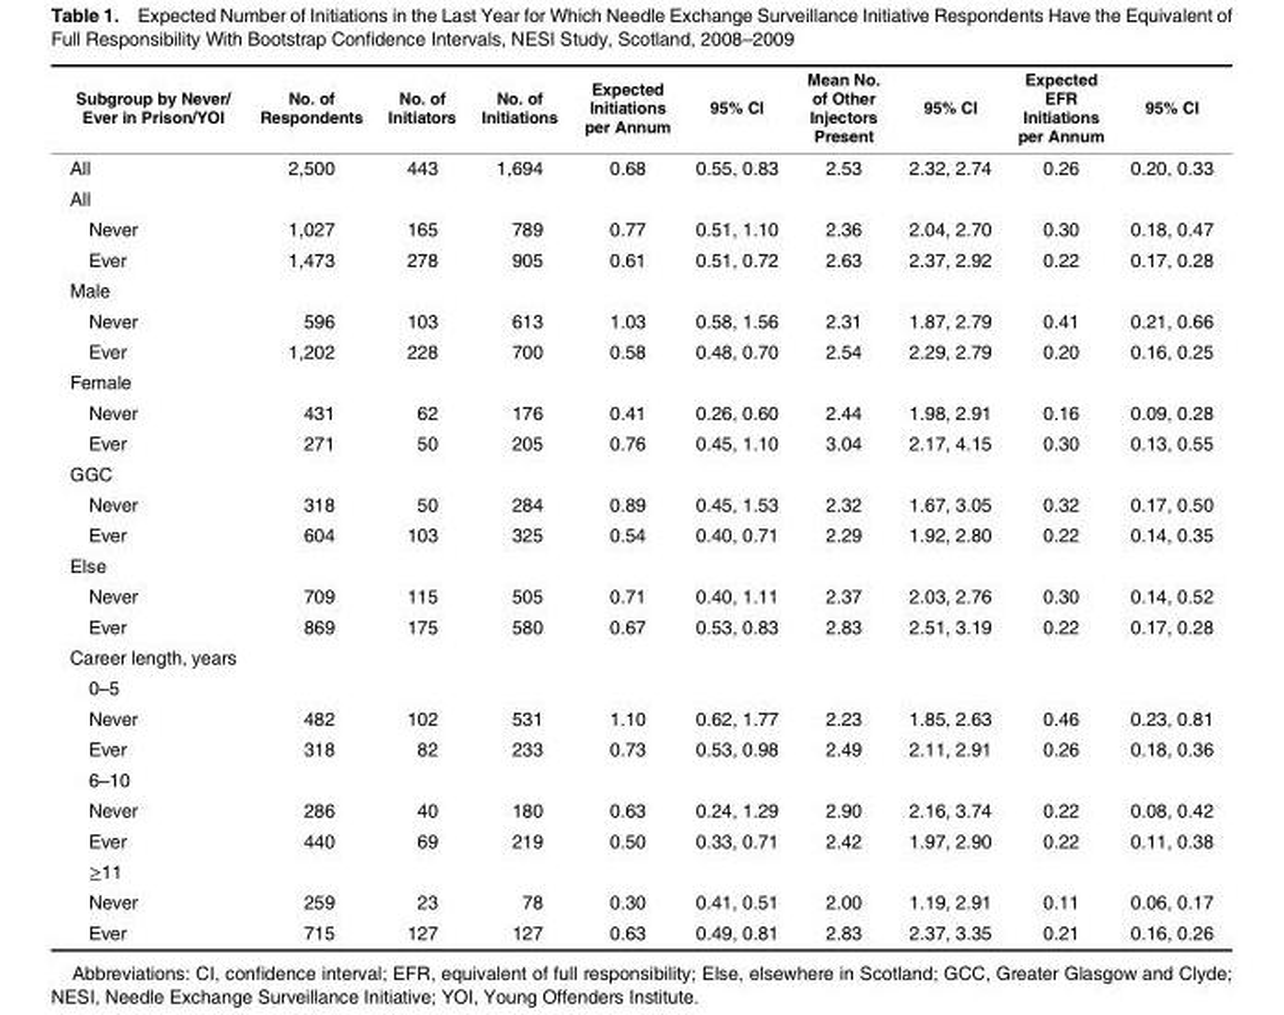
<table><thead><tr><td>Subgroup by Never/ Ever in Prison/YOI</td><td>No. of Respondents</td><td>No. of Initiators</td><td>No. of Initiations</td><td>Expected Initiations per Annum</td><td>95% CI</td><td>Mean No. of Other Injectors Present</td><td>95% CI</td><td>Expected EFR Initiations per Annum</td><td>95% CI</td></tr></thead><tbody><tr><td>All</td><td>2,500</td><td>443</td><td>1,694</td><td>0.68</td><td>0.55, 0.83</td><td>2.53</td><td>2.32, 2.74</td><td>0.26</td><td>0.20, 0.33</td></tr><tr><td colspan="10">All</td></tr><tr><td>Never</td><td>1,027</td><td>165</td><td>789</td><td>0.77</td><td>0.51, 1.10</td><td>2.36</td><td>2.04, 2.70</td><td>0.30</td><td>0.18, 0.47</td></tr><tr><td>Ever</td><td>1,473</td><td>278</td><td>905</td><td>0.61</td><td>0.51, 0.72</td><td>2.63</td><td>2.37, 2.92</td><td>0.22</td><td>0.17, 0.28</td></tr><tr><td colspan="10">Male</td></tr><tr><td>Never</td><td>596</td><td>103</td><td>613</td><td>1.03</td><td>0.58, 1.56</td><td>2.31</td><td>1.87, 2.79</td><td>0.41</td><td>0.21, 0.66</td></tr><tr><td>Ever</td><td>1,202</td><td>228</td><td>700</td><td>0.58</td><td>0.48, 0.70</td><td>2.54</td><td>2.29, 2.79</td><td>0.20</td><td>0.16, 0.25</td></tr><tr><td colspan="10">Female</td></tr><tr><td>Never</td><td>431</td><td>62</td><td>176</td><td>0.41</td><td>0.26, 0.60</td><td>2.44</td><td>1.98, 2.91</td><td>0.16</td><td>0.09, 0.28</td></tr><tr><td>Ever</td><td>271</td><td>50</td><td>205</td><td>0.76</td><td>0.45, 1.10</td><td>3.04</td><td>2.17, 4.15</td><td>0.30</td><td>0.13, 0.55</td></tr><tr><td colspan="10">GGC</td></tr><tr><td>Never</td><td>318</td><td>50</td><td>284</td><td>0.89</td><td>0.45, 1.53</td><td>2.32</td><td>1.67, 3.05</td><td>0.32</td><td>0.17, 0.50</td></tr><tr><td>Ever</td><td>604</td><td>103</td><td>325</td><td>0.54</td><td>0.40, 0.71</td><td>2.29</td><td>1.92, 2.80</td><td>0.22</td><td>0.14, 0.35</td></tr><tr><td colspan="10">Else</td></tr><tr><td>Never</td><td>709</td><td>115</td><td>505</td><td>0.71</td><td>0.40, 1.11</td><td>2.37</td><td>2.03, 2.76</td><td>0.30</td><td>0.14, 0.52</td></tr><tr><td>Ever</td><td>869</td><td>175</td><td>580</td><td>0.67</td><td>0.53, 0.83</td><td>2.83</td><td>2.51, 3.19</td><td>0.22</td><td>0.17, 0.28</td></tr><tr><td colspan="10">Career length, years</td></tr><tr><td colspan="10">0–5</td></tr><tr><td>Never</td><td>482</td><td>102</td><td>531</td><td>1.10</td><td>0.62, 1.77</td><td>2.23</td><td>1.85, 2.63</td><td>0.46</td><td>0.23, 0.81</td></tr><tr><td>Ever</td><td>318</td><td>82</td><td>233</td><td>0.73</td><td>0.53, 0.98</td><td>2.49</td><td>2.11, 2.91</td><td>0.26</td><td>0.18, 0.36</td></tr><tr><td colspan="10">6–10</td></tr><tr><td>Never</td><td>286</td><td>40</td><td>180</td><td>0.63</td><td>0.24, 1.29</td><td>2.90</td><td>2.16, 3.74</td><td>0.22</td><td>0.08, 0.42</td></tr><tr><td>Ever</td><td>440</td><td>69</td><td>219</td><td>0.50</td><td>0.33, 0.71</td><td>2.42</td><td>1.97, 2.90</td><td>0.22</td><td>0.11, 0.38</td></tr><tr><td colspan="10">≥11</td></tr><tr><td>Never</td><td>259</td><td>23</td><td>78</td><td>0.30</td><td>0.41, 0.51</td><td>2.00</td><td>1.19, 2.91</td><td>0.11</td><td>0.06, 0.17</td></tr><tr><td>Ever</td><td>715</td><td>127</td><td>127</td><td>0.63</td><td>0.49, 0.81</td><td>2.83</td><td>2.37, 3.35</td><td>0.21</td><td>0.16, 0.26</td></tr></tbody></table>